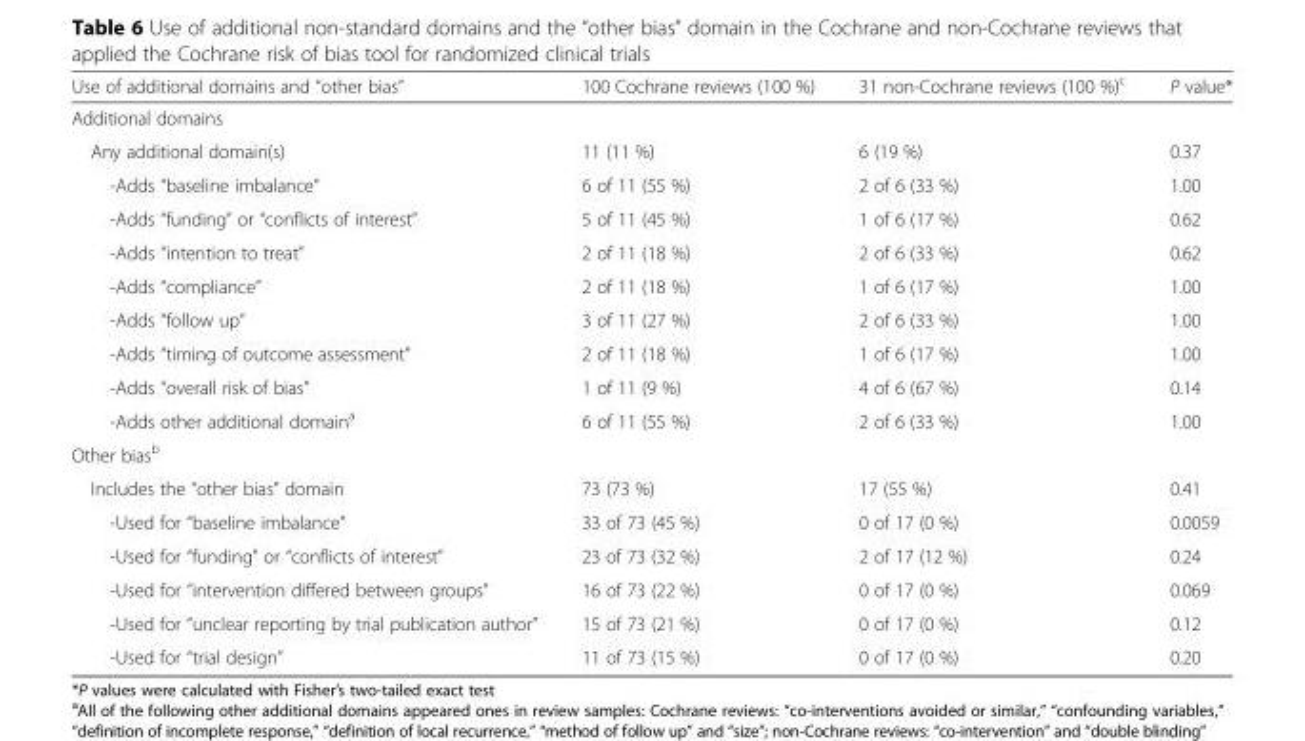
<table><thead><tr><td>Use of additional domains and “other bias”</td><td>100 Cochrane reviews (100 %)</td><td>31 non-Cochrane reviews (100 %)<sup>c</sup></td><td>P value*</td></tr></thead><tbody><tr><td colspan="4">Additional domains</td></tr><tr><td>Any additional domain(s)</td><td>11 (11 %)</td><td>6 (19 %)</td><td>0.37</td></tr><tr><td>-Adds “baseline imbalance”</td><td>6 of 11 (55 %)</td><td>2 of 6 (33 %)</td><td>1.00</td></tr><tr><td>-Adds “funding” or “conflicts of interest”</td><td>5 of 11 (45 %)</td><td>1 of 6 (17 %)</td><td>0.62</td></tr><tr><td>-Adds “intention to treat”</td><td>2 of 11 (18 %)</td><td>2 of 6 (33 %)</td><td>0.62</td></tr><tr><td>-Adds “compliance”</td><td>2 of 11 (18 %)</td><td>1 of 6 (17 %)</td><td>1.00</td></tr><tr><td>-Adds “follow up”</td><td>3 of 11 (27 %)</td><td>2 of 6 (33 %)</td><td>1.00</td></tr><tr><td>-Adds “timing of outcome assessment”</td><td>2 of 11 (18 %)</td><td>1 of 6 (17 %)</td><td>1.00</td></tr><tr><td>-Adds “overall risk of bias”</td><td>1 of 11 (9 %)</td><td>4 of 6 (67 %)</td><td>0.14</td></tr><tr><td>-Adds other additional domain<sup>a</sup></td><td>6 of 11 (55 %)</td><td>2 of 6 (33 %)</td><td>1.00</td></tr><tr><td colspan="4">Other bias<sup>b</sup></td></tr><tr><td>Includes the “other bias” domain</td><td>73 (73 %)</td><td>17 (55 %)</td><td>0.41</td></tr><tr><td>-Used for “baseline imbalance”</td><td>33 of 73 (45 %)</td><td>0 of 17 (0 %)</td><td>0.0059</td></tr><tr><td>-Used for “funding” or “conflicts of interest”</td><td>23 of 73 (32 %)</td><td>2 of 17 (12 %)</td><td>0.24</td></tr><tr><td>-Used for “intervention differed between groups”</td><td>16 of 73 (22 %)</td><td>0 of 17 (0 %)</td><td>0.069</td></tr><tr><td>-Used for “unclear reporting by trial publication author”</td><td>15 of 73 (21 %)</td><td>0 of 17 (0 %)</td><td>0.12</td></tr><tr><td>-Used for “trial design”</td><td>11 of 73 (15 %)</td><td>0 of 17 (0 %)</td><td>0.20</td></tr></tbody></table>